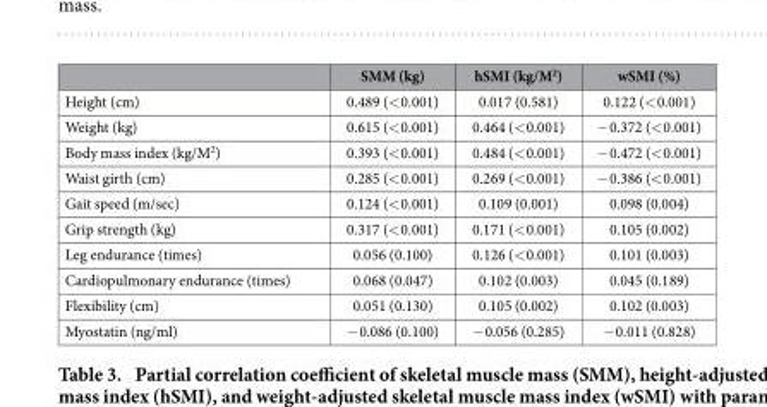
<table><thead><tr><td></td><td>SMM (kg)</td><td>hSMI (kg/M<sup>2</sup>)</td><td>wSMI (%)</td></tr></thead><tbody><tr><td>Height (cm)</td><td>0.489 (&lt; 0.001)</td><td>0.017 (0.581)</td><td>0.122 (&lt; 0.001)</td></tr><tr><td>Weight (kg)</td><td>0.615 (&lt; 0.001)</td><td>0.464 (&lt; 0.001)</td><td>− 0.372 (&lt; 0.001)</td></tr><tr><td>Body mass index (kg/M<sup>2</sup>)</td><td>0.393 (&lt; 0.001)</td><td>0.484 (&lt; 0.001)</td><td>− 0.472 (&lt; 0.001)</td></tr><tr><td>Waist girth (cm)</td><td>0.285 (&lt; 0.001)</td><td>0.269 (&lt; 0.001)</td><td>− 0.386 (&lt; 0.001)</td></tr><tr><td>Gait speed (m/sec)</td><td>0.124 (&lt; 0.001)</td><td>0.109 (0.001)</td><td>0.098 (0.004)</td></tr><tr><td>Grip strength (kg)</td><td>0.317 (&lt; 0.001)</td><td>0.171 (&lt; 0.001)</td><td>0.105 (0.002)</td></tr><tr><td>Leg endurance (times)</td><td>0.056 (0.100)</td><td>0.126 (&lt; 0.001)</td><td>0.101 (0.003)</td></tr><tr><td>Cardiopulmonary endurance (times)</td><td>0.068 (0.047)</td><td>0.102 (0.003)</td><td>0.045 (0.189)</td></tr><tr><td>Flexibility (cm)</td><td>0.051 (0.130)</td><td>0.105 (0.002)</td><td>0.102 (0.003)</td></tr><tr><td>Myostatin (ng/ml)</td><td>− 0.086 (0.100)</td><td>− 0.056 (0.285)</td><td>− 0.011 (0.828)</td></tr></tbody></table>